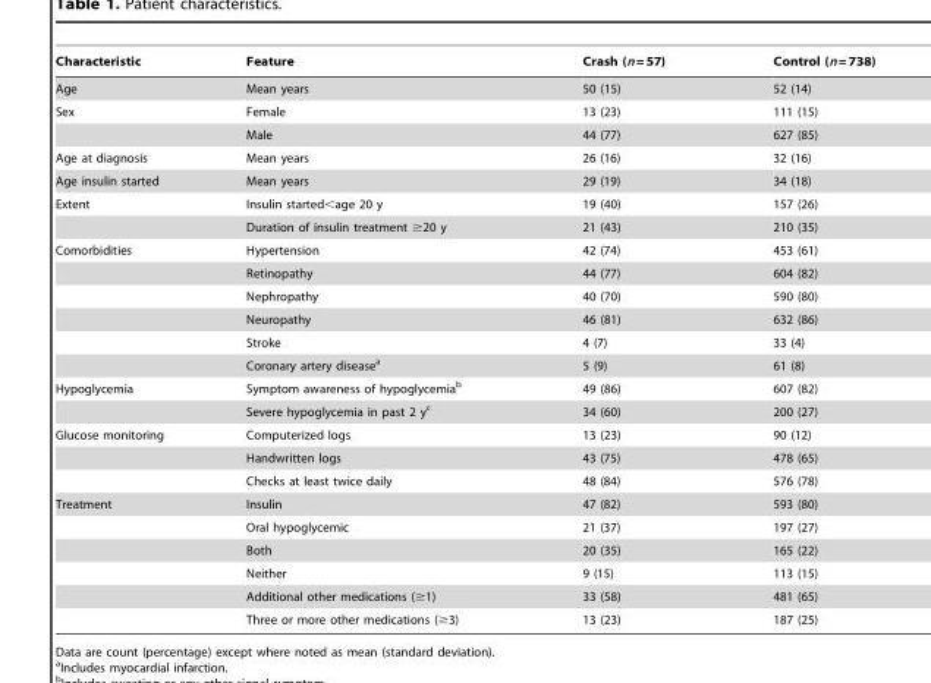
<table><thead><tr><td>Characteristic</td><td>Feature</td><td>Crash (n = 57)</td><td>Control (n = 738)</td></tr></thead><tbody><tr><td>Age</td><td>Mean years</td><td>50 (15)</td><td>52 (14)</td></tr><tr><td rowspan="2">Sex</td><td>Female</td><td>13 (23)</td><td>111 (15)</td></tr><tr><td>Male</td><td>44 (77)</td><td>627 (85)</td></tr><tr><td>Age at diagnosis</td><td>Mean years</td><td>26 (16)</td><td>32 (16)</td></tr><tr><td>Age insulin started</td><td>Mean years</td><td>29 (19)</td><td>34 (18)</td></tr><tr><td rowspan="2">Extent</td><td>Insulin started&lt;age 20 y</td><td>19 (40)</td><td>157 (26)</td></tr><tr><td>Duration of insulin treatment ≥20 y</td><td>21 (43)</td><td>210 (35)</td></tr><tr><td rowspan="6">Comorbidities</td><td>Hypertension</td><td>42 (74)</td><td>453 (61)</td></tr><tr><td>Retinopathy</td><td>44 (77)</td><td>604 (82)</td></tr><tr><td>Nephropathy</td><td>40 (70)</td><td>590 (80)</td></tr><tr><td>Neuropathy</td><td>46 (81)</td><td>632 (86)</td></tr><tr><td>Stroke</td><td>4 (7)</td><td>33 (4)</td></tr><tr><td>Coronary artery disease<sup>a</sup></td><td>5 (9)</td><td>61 (8)</td></tr><tr><td rowspan="2">Hypoglycemia</td><td>Symptom awareness of hypoglycemia<sup>b</sup></td><td>49 (86)</td><td>607 (82)</td></tr><tr><td>Severe hypoglycemia in past 2 y<sup>c</sup></td><td>34 (60)</td><td>200 (27)</td></tr><tr><td rowspan="3">Glucose monitoring</td><td>Computerized logs</td><td>13 (23)</td><td>90 (12)</td></tr><tr><td>Handwritten logs</td><td>43 (75)</td><td>478 (65)</td></tr><tr><td>Checks at least twice daily</td><td>48 (84)</td><td>576 (78)</td></tr><tr><td rowspan="6">Treatment</td><td>Insulin</td><td>47 (82)</td><td>593 (80)</td></tr><tr><td>Oral hypoglycemic</td><td>21 (37)</td><td>197 (27)</td></tr><tr><td>Both</td><td>20 (35)</td><td>165 (22)</td></tr><tr><td>Neither</td><td>9 (15)</td><td>113 (15)</td></tr><tr><td>Additional other medications (≥1)</td><td>33 (58)</td><td>481 (65)</td></tr><tr><td>Three or more other medications (≥3)</td><td>13 (23)</td><td>187 (25)</td></tr></tbody></table>